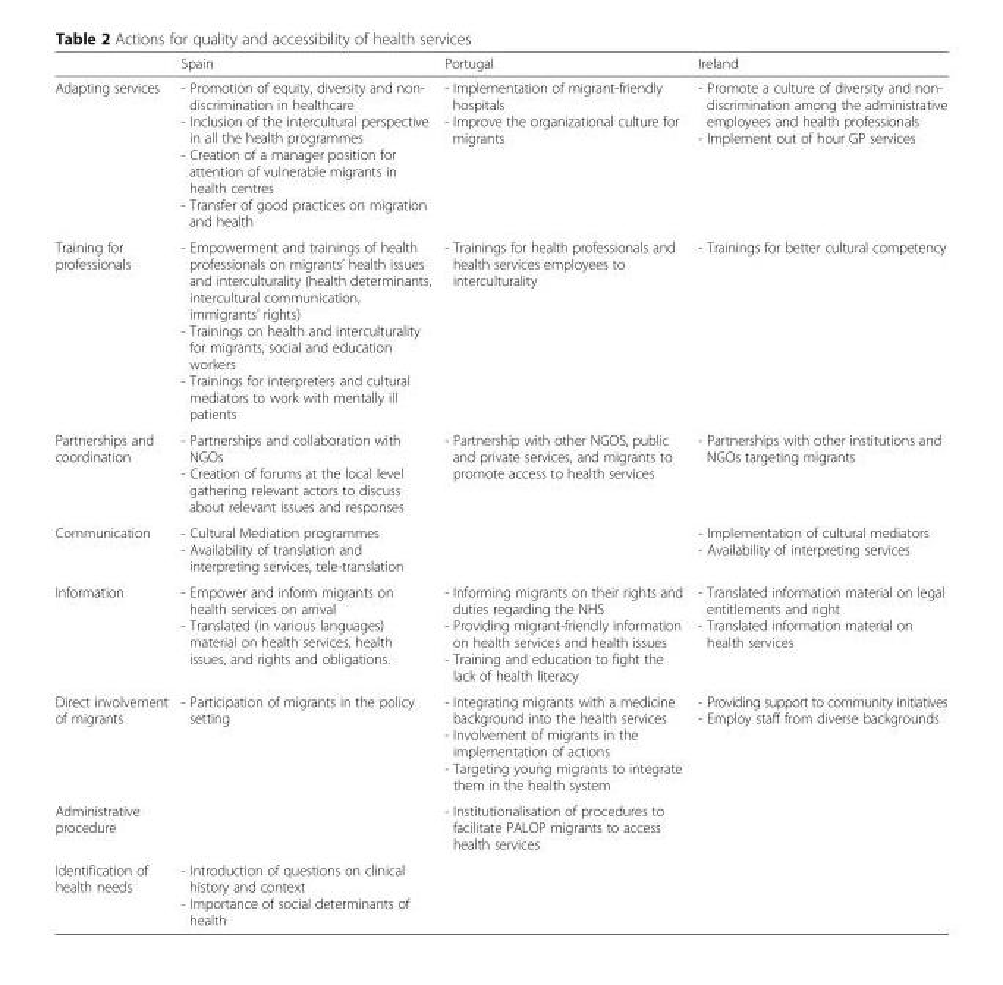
<table><thead><tr><td></td><td>Spain</td><td>Portugal</td><td>Ireland</td></tr></thead><tbody><tr><td>Adapting services</td><td>- Promotion of equity, diversity and non- discrimination in healthcare - Inclusion of the intercultural perspective in all the health programmes - Creation of a manager position for attention of vulnerable migrants in health centres - Transfer of good practices on migration and health</td><td>- Implementation of migrant-friendly hospitals - Improve the organizational culture for migrants</td><td>- Promote a culture of diversity and non- discrimination among the administrative employees and health professionals - Implement out of hour GP services</td></tr><tr><td>Training for professionals</td><td>- Empowerment and trainings of health professionals on migrants’ health issues and interculturality (health determinants, intercultural communication, immigrants’ rights) - Trainings on health and interculturality for migrants, social and education workers - Trainings for interpreters and cultural mediators to work with mentally ill patients</td><td>- Trainings for health professionals and health services employees to interculturality</td><td>- Trainings for better cultural competency</td></tr><tr><td>Partnerships and coordination</td><td>- Partnerships and collaboration with NGOs - Creation of forums at the local level gathering relevant actors to discuss about relevant issues and responses</td><td>- Partnership with other NGOS, public and private services, and migrants to promote access to health services</td><td>- Partnerships with other institutions and NGOs targeting migrants</td></tr><tr><td>Communication</td><td>- Cultural Mediation programmes - Availability of translation and interpreting services, tele-translation</td><td></td><td>- Implementation of cultural mediators - Availability of interpreting services</td></tr><tr><td>Information</td><td>- Empower and inform migrants on health services on arrival - Translated (in various languages) material on health services, health issues, and rights and obligations.</td><td>- Informing migrants on their rights and duties regarding the NHS - Providing migrant-friendly information on health services and health issues - Training and education to fight the lack of health literacy</td><td>- Translated information material on legal entitlements and right - Translated information material on health services</td></tr><tr><td>Direct involvement of migrants</td><td>- Participation of migrants in the policy setting</td><td>- Integrating migrants with a medicine background into the health services - Involvement of migrants in the implementation of actions - Targeting young migrants to integrate them in the health system</td><td>- Providing support to community initiatives - Employ staff from diverse backgrounds</td></tr><tr><td>Administrative procedure</td><td></td><td>- Institutionalisation of procedures to facilitate PALOP migrants to access health services</td><td></td></tr><tr><td>Identification of health needs</td><td>- Introduction of questions on clinical history and context - Importance of social determinants of health</td><td></td><td></td></tr></tbody></table>